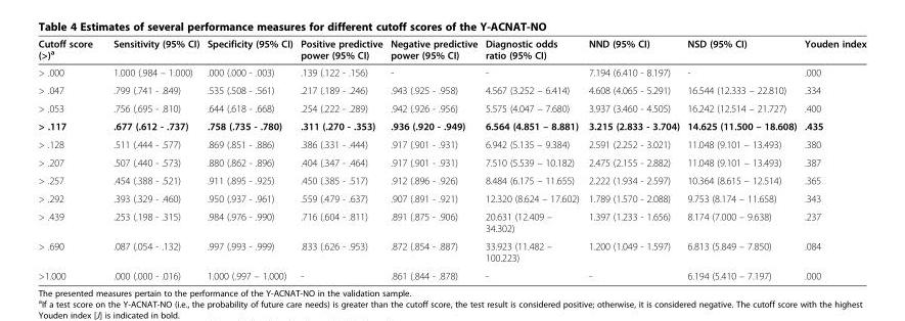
<table><thead><tr><td>Cutoff score (&gt;)<sup>a</sup></td><td>Sensitivity (95% CI)</td><td>Specificity (95% CI)</td><td>Positive predictive power (95% CI)</td><td>Negative predictive power (95% CI)</td><td>Diagnostic odds ratio (95% CI)</td><td>NND (95% CI)</td><td>NSD (95% CI)</td><td>Youden index</td></tr></thead><tbody><tr><td>&gt; .000</td><td>1.000 (.984 – 1.000)</td><td>.000 (.000 - .003)</td><td>.139 (.122 - .156)</td><td>-</td><td>-</td><td>7.194 (6.410 - 8.197)</td><td>-</td><td>.000</td></tr><tr><td>&gt; .047</td><td>.799 (.741 - .849)</td><td>.535 (.508 - .561)</td><td>.217 (.189 - .246)</td><td>.943 (.925 - .958)</td><td>4.567 (3.252 – 6.414)</td><td>4.608 (4.065 - 5.291)</td><td>16.544 (12.333 – 22.810)</td><td>.334</td></tr><tr><td>&gt; .053</td><td>.756 (.695 - .810)</td><td>.644 (.618 - .668)</td><td>.254 (.222 - .289)</td><td>.942 (.926 - .956)</td><td>5.575 (4.047 – 7.680)</td><td>3.937 (3.460 - 4.505)</td><td>16.242 (12.514 – 21.727)</td><td>.400</td></tr><tr><td>&gt; .117</td><td>.677 (.612 - .737)</td><td>.758 (.735 - .780)</td><td>.311 (.270 - .353)</td><td>.936 (.920 - .949)</td><td>6.564 (4.851 – 8.881)</td><td>3.215 (2.833 - 3.704)</td><td>14.625 (11.500 – 18.608)</td><td>.435</td></tr><tr><td>&gt; .128</td><td>.511 (.444 - .577)</td><td>.869 (.851 - .886)</td><td>.386 (.331 - .444)</td><td>.917 (.901 - .931)</td><td>6.942 (5.135 – 9.384)</td><td>2.591 (2.252 - 3.021)</td><td>11.048 (9.101 – 13.493)</td><td>.380</td></tr><tr><td>&gt; .207</td><td>.507 (.440 - .573)</td><td>.880 (.862 - .896)</td><td>.404 (.347 - .464)</td><td>.917 (.901 - .931)</td><td>7.510 (5.539 – 10.182)</td><td>2.475 (2.155 - 2.882)</td><td>11.048 (9.101 – 13.493)</td><td>.387</td></tr><tr><td>&gt; .257</td><td>.454 (.388 - .521)</td><td>.911 (.895 - .925)</td><td>.450 (.385 - .517)</td><td>.912 (.896 - .926)</td><td>8.484 (6.175 – 11.655)</td><td>2.222 (1.934 - 2.597)</td><td>10.364 (8.615 – 12.514)</td><td>.365</td></tr><tr><td>&gt; .292</td><td>.393 (.329 - .460)</td><td>.950 (.937 - .961)</td><td>.559 (.479 - .637)</td><td>.907 (.891 - .921)</td><td>12.320 (8.624 – 17.602)</td><td>1.789 (1.570 - 2.088)</td><td>9.753 (8.174 – 11.658)</td><td>.343</td></tr><tr><td>&gt; .439</td><td>.253 (.198 - .315)</td><td>.984 (.976 - .990)</td><td>.716 (.604 - .811)</td><td>.891 (.875 - .906)</td><td>20.631 (12.409 – 34.302)</td><td>1.397 (1.233 - 1.656)</td><td>8.174 (7.000 – 9.638)</td><td>.237</td></tr><tr><td>&gt; .690</td><td>.087 (.054 - .132)</td><td>.997 (.993 - .999)</td><td>.833 (.626 - .953)</td><td>.872 (.854 - .887)</td><td>33.923 (11.482 – 100.223)</td><td>1.200 (1.049 - 1.597)</td><td>6.813 (5.849 – 7.850)</td><td>.084</td></tr><tr><td>&gt;1.000</td><td>.000 (.000 - .016)</td><td>1.000 (.997 – 1.000)</td><td>-</td><td>.861 (.844 - .878)</td><td>-</td><td>-</td><td>6.194 (5.410 – 7.197)</td><td>.000</td></tr></tbody></table>